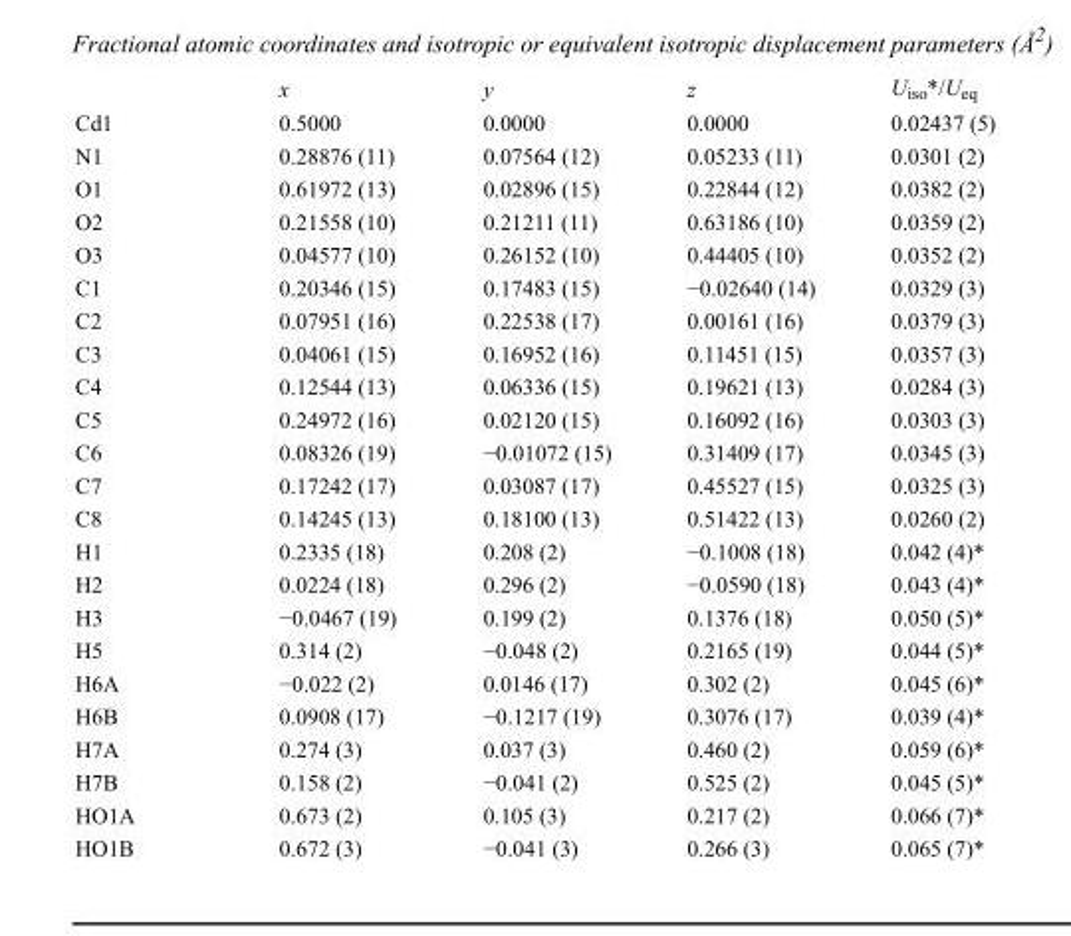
<table><thead><tr><td></td><td>x</td><td>y</td><td>z</td><td>U<sub>iso</sub>*/U<sub>eq</sub></td></tr></thead><tbody><tr><td>Cd1</td><td>0.5000</td><td>0.0000</td><td>0.0000</td><td>0.02437 (5)</td></tr><tr><td>N1</td><td>0.28876 (11)</td><td>0.07564 (12)</td><td>0.05233 (11)</td><td>0.0301 (2)</td></tr><tr><td>O1</td><td>0.61972 (13)</td><td>0.02896 (15)</td><td>0.22844 (12)</td><td>0.0382 (2)</td></tr><tr><td>O2</td><td>0.21558 (10)</td><td>0.21211 (11)</td><td>0.63186 (10)</td><td>0.0359 (2)</td></tr><tr><td>O3</td><td>0.04577 (10)</td><td>0.26152 (10)</td><td>0.44405 (10)</td><td>0.0352 (2)</td></tr><tr><td>C1</td><td>0.20346 (15)</td><td>0.17483 (15)</td><td>−0.02640 (14)</td><td>0.0329 (3)</td></tr><tr><td>C2</td><td>0.07951 (16)</td><td>0.22538 (17)</td><td>0.00161 (16)</td><td>0.0379 (3)</td></tr><tr><td>C3</td><td>0.04061 (15)</td><td>0.16952 (16)</td><td>0.11451 (15)</td><td>0.0357 (3)</td></tr><tr><td>C4</td><td>0.12544 (13)</td><td>0.06336 (15)</td><td>0.19621 (13)</td><td>0.0284 (3)</td></tr><tr><td>C5</td><td>0.24972 (16)</td><td>0.02120 (15)</td><td>0.16092 (16)</td><td>0.0303 (3)</td></tr><tr><td>C6</td><td>0.08326 (19)</td><td>−0.01072 (15)</td><td>0.31409 (17)</td><td>0.0345 (3)</td></tr><tr><td>C7</td><td>0.17242 (17)</td><td>0.03087 (17)</td><td>0.45527 (15)</td><td>0.0325 (3)</td></tr><tr><td>C8</td><td>0.14245 (13)</td><td>0.18100 (13)</td><td>0.51422 (13)</td><td>0.0260 (2)</td></tr><tr><td>H1</td><td>0.2335 (18)</td><td>0.208 (2)</td><td>−0.1008 (18)</td><td>0.042 (4)*</td></tr><tr><td>H2</td><td>0.0224 (18)</td><td>0.296 (2)</td><td>−0.0590 (18)</td><td>0.043 (4)*</td></tr><tr><td>H3</td><td>−0.0467 (19)</td><td>0.199 (2)</td><td>0.1376 (18)</td><td>0.050 (5)*</td></tr><tr><td>H5</td><td>0.314 (2)</td><td>−0.048 (2)</td><td>0.2165 (19)</td><td>0.044 (5)*</td></tr><tr><td>H6A</td><td>−0.022 (2)</td><td>0.0146 (17)</td><td>0.302 (2)</td><td>0.045 (6)*</td></tr><tr><td>H6B</td><td>0.0908 (17)</td><td>−0.1217 (19)</td><td>0.3076 (17)</td><td>0.039 (4)*</td></tr><tr><td>H7A</td><td>0.274 (3)</td><td>0.037 (3)</td><td>0.460 (2)</td><td>0.059 (6)*</td></tr><tr><td>H7B</td><td>0.158 (2)</td><td>−0.041 (2)</td><td>0.525 (2)</td><td>0.045 (5)*</td></tr><tr><td>HO1A</td><td>0.673 (2)</td><td>0.105 (3)</td><td>0.217 (2)</td><td>0.066 (7)*</td></tr><tr><td>HO1B</td><td>0.672 (3)</td><td>−0.041 (3)</td><td>0.266 (3)</td><td>0.065 (7)*</td></tr></tbody></table>